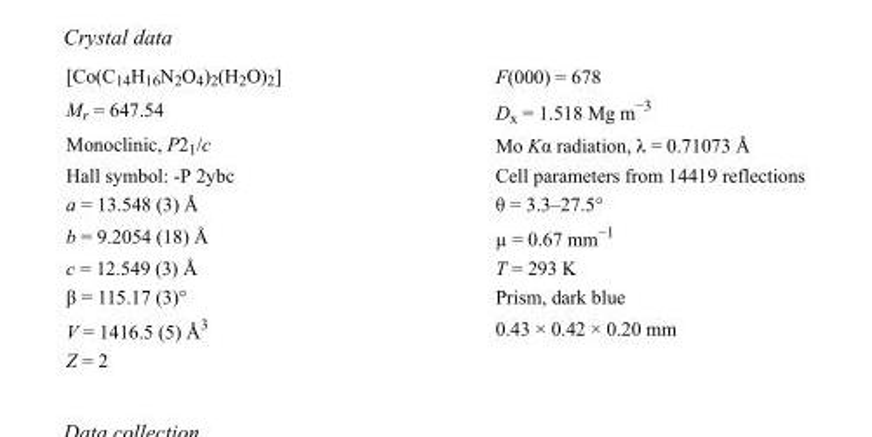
<table><tbody><tr><td>[Co(C<sub>14</sub>H<sub>16</sub>N<sub>2</sub>O<sub>4</sub>)<sub>2</sub>(H<sub>2</sub>O)<sub>2</sub>]</td><td>F(000) = 678</td></tr><tr><td>M<sub>r</sub> = 647.54</td><td>D<sub>x</sub> = 1.518 Mg m<sup>−3</sup></td></tr><tr><td>Monoclinic, P2<sub>1</sub>/c</td><td>Mo Kα radiation, λ = 0.71073 Å</td></tr><tr><td>Hall symbol: -P 2ybc</td><td>Cell parameters from 14419 reflections</td></tr><tr><td>a = 13.548 (3) Å</td><td>θ = 3.3–27.5°</td></tr><tr><td>b = 9.2054 (18) Å</td><td>µ = 0.67 mm<sup>−1</sup></td></tr><tr><td>c = 12.549 (3) Å</td><td>T = 293 K</td></tr><tr><td>β = 115.17 (3)°</td><td>Prism, dark blue</td></tr><tr><td>V = 1416.5 (5) Å<sup>3</sup></td><td>0.43 × 0.42 × 0.20 mm</td></tr><tr><td>Z = 2</td><td></td></tr></tbody></table>